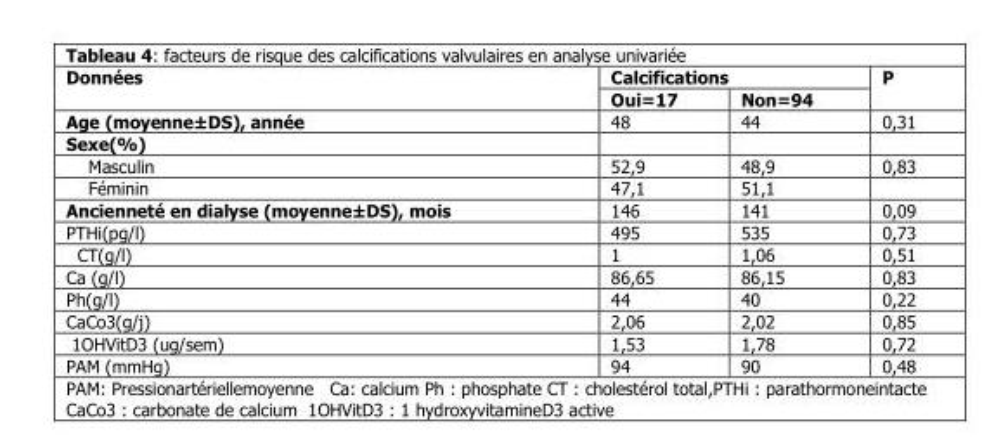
<table><thead><tr><td rowspan="2">Données</td><td colspan="2">Calcifications</td><td rowspan="2">P</td></tr><tr><td>Oui=17</td><td>Non=94</td></tr></thead><tbody><tr><td>Age (moyenne±DS), année</td><td>48</td><td>44</td><td>0,31</td></tr><tr><td colspan="4">Sexe(%)</td></tr><tr><td>Masculin</td><td>52,9</td><td>48,9</td><td>0,83</td></tr><tr><td>Féminin</td><td>47,1</td><td>51,1</td><td></td></tr><tr><td>Ancienneté en dialyse (moyenne±DS), mois</td><td>146</td><td>141</td><td>0,09</td></tr><tr><td>PTHi(pg/l)</td><td>495</td><td>535</td><td>0,73</td></tr><tr><td>CT(g/l)</td><td>1</td><td>1,06</td><td>0,51</td></tr><tr><td>Ca (g/l)</td><td>86,65</td><td>86,15</td><td>0,83</td></tr><tr><td>Ph(g/l)</td><td>44</td><td>40</td><td>0,22</td></tr><tr><td>CaCo3(g/j)</td><td>2,06</td><td>2,02</td><td>0,85</td></tr><tr><td>1OHVitD3 (ug/sem)</td><td>1,53</td><td>1,78</td><td>0,72</td></tr><tr><td>PAM (mmHg)</td><td>94</td><td>90</td><td>0,48</td></tr></tbody></table>